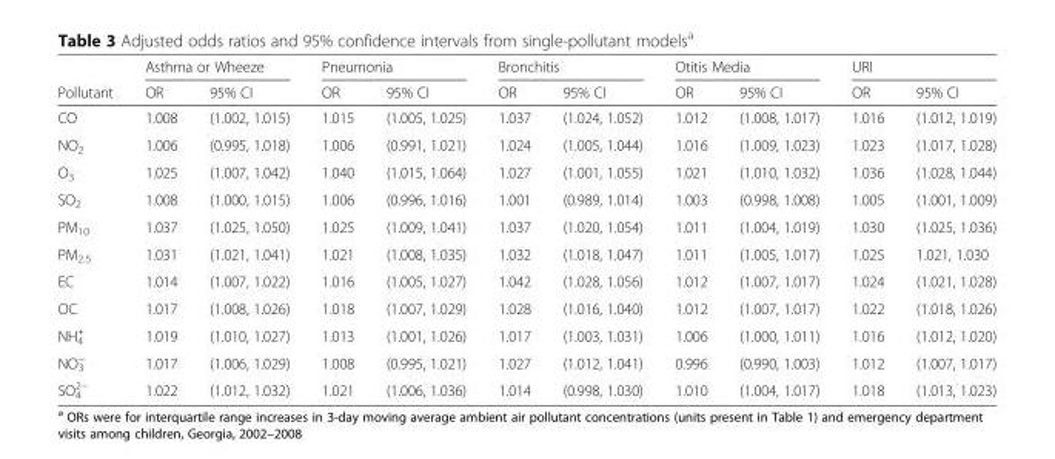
<table><thead><tr><td rowspan="2">Pollutant</td><td colspan="2">Asthma or Wheeze</td><td colspan="2">Pneumonia</td><td colspan="2">Bronchitis</td><td colspan="2">Otitis Media</td><td colspan="2">URI</td></tr><tr><td>OR</td><td>95% CI</td><td>OR</td><td>95% CI</td><td>OR</td><td>95% CI</td><td>OR</td><td>95% CI</td><td>OR</td><td>95% CI</td></tr></thead><tbody><tr><td>CO</td><td>1.008</td><td>(1.002, 1.015)</td><td>1.015</td><td>(1.005, 1.025)</td><td>1.037</td><td>(1.024, 1.052)</td><td>1.012</td><td>(1.008, 1.017)</td><td>1.016</td><td>(1.012, 1.019)</td></tr><tr><td>NO<sub>2</sub></td><td>1.006</td><td>(0.995, 1.018)</td><td>1.006</td><td>(0.991, 1.021)</td><td>1.024</td><td>(1.005, 1.044)</td><td>1.016</td><td>(1.009, 1.023)</td><td>1.023</td><td>(1.017, 1.028)</td></tr><tr><td>O<sub>3</sub></td><td>1.025</td><td>(1.007, 1.042)</td><td>1.040</td><td>(1.015, 1.064)</td><td>1.027</td><td>(1.001, 1.055)</td><td>1.021</td><td>(1.010, 1.032)</td><td>1.036</td><td>(1.028, 1.044)</td></tr><tr><td>SO<sub>2</sub></td><td>1.008</td><td>(1.000, 1.015)</td><td>1.006</td><td>(0.996, 1.016)</td><td>1.001</td><td>(0.989, 1.014)</td><td>1.003</td><td>(0.998, 1.008)</td><td>1.005</td><td>(1.001, 1.009)</td></tr><tr><td>PM<sub>10</sub></td><td>1.037</td><td>(1.025, 1.050)</td><td>1.025</td><td>(1.009, 1.041)</td><td>1.037</td><td>(1.020, 1.054)</td><td>1.011</td><td>(1.004, 1.019)</td><td>1.030</td><td>(1.025, 1.036)</td></tr><tr><td>PM<sub>2.5</sub></td><td>1.031</td><td>(1.021, 1.041)</td><td>1.021</td><td>(1.008, 1.035)</td><td>1.032</td><td>(1.018, 1.047)</td><td>1.011</td><td>(1.005, 1.017)</td><td>1.025</td><td>1.021, 1.030</td></tr><tr><td>EC</td><td>1.014</td><td>(1.007, 1.022)</td><td>1.016</td><td>(1.005, 1.027)</td><td>1.042</td><td>(1.028, 1.056)</td><td>1.012</td><td>(1.007, 1.017)</td><td>1.024</td><td>(1.021, 1.028)</td></tr><tr><td>OC</td><td>1.017</td><td>(1.008, 1.026)</td><td>1.018</td><td>(1.007, 1.029)</td><td>1.028</td><td>(1.016, 1.040)</td><td>1.012</td><td>(1.007, 1.017)</td><td>1.022</td><td>(1.018, 1.026)</td></tr><tr><td>NH<sub>4</sub> <sup>+</sup></td><td>1.019</td><td>(1.010, 1.027)</td><td>1.013</td><td>(1.001, 1.026)</td><td>1.017</td><td>(1.003, 1.031)</td><td>1.006</td><td>(1.000, 1.011)</td><td>1.016</td><td>(1.012, 1.020)</td></tr><tr><td>NO<sub>3</sub> <sup>−</sup></td><td>1.017</td><td>(1.006, 1.029)</td><td>1.008</td><td>(0.995, 1.021)</td><td>1.027</td><td>(1.012, 1.041)</td><td>0.996</td><td>(0.990, 1.003)</td><td>1.012</td><td>(1.007, 1.017)</td></tr><tr><td>SO<sub>4</sub> <sup>2−</sup></td><td>1.022</td><td>(1.012, 1.032)</td><td>1.021</td><td>(1.006, 1.036)</td><td>1.014</td><td>(0.998, 1.030)</td><td>1.010</td><td>(1.004, 1.017)</td><td>1.018</td><td>(1.013, 1.023)</td></tr></tbody></table>